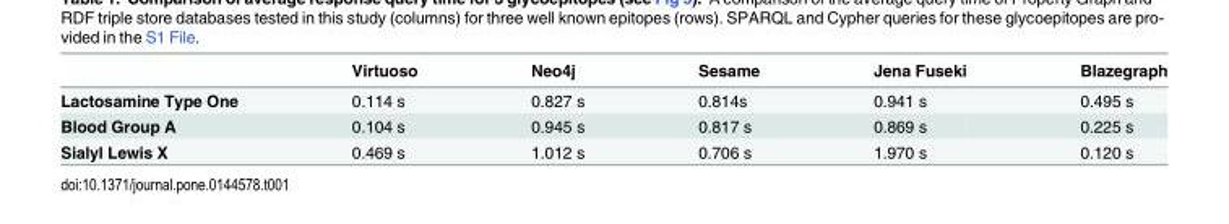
<table><thead><tr><td></td><td>Virtuoso</td><td>Neo4j</td><td>Sesame</td><td>Jena Fuseki</td><td>Blazegraph</td></tr></thead><tbody><tr><td>Lactosamine Type One</td><td>0.114 s</td><td>0.827 s</td><td>0.814s</td><td>0.941 s</td><td>0.495 s</td></tr><tr><td>Blood Group A</td><td>0.104 s</td><td>0.945 s</td><td>0.817 s</td><td>0.869 s</td><td>0.225 s</td></tr><tr><td>Sialyl Lewis X</td><td>0.469 s</td><td>1.012 s</td><td>0.706 s</td><td>1.970 s</td><td>0.120 s</td></tr></tbody></table>